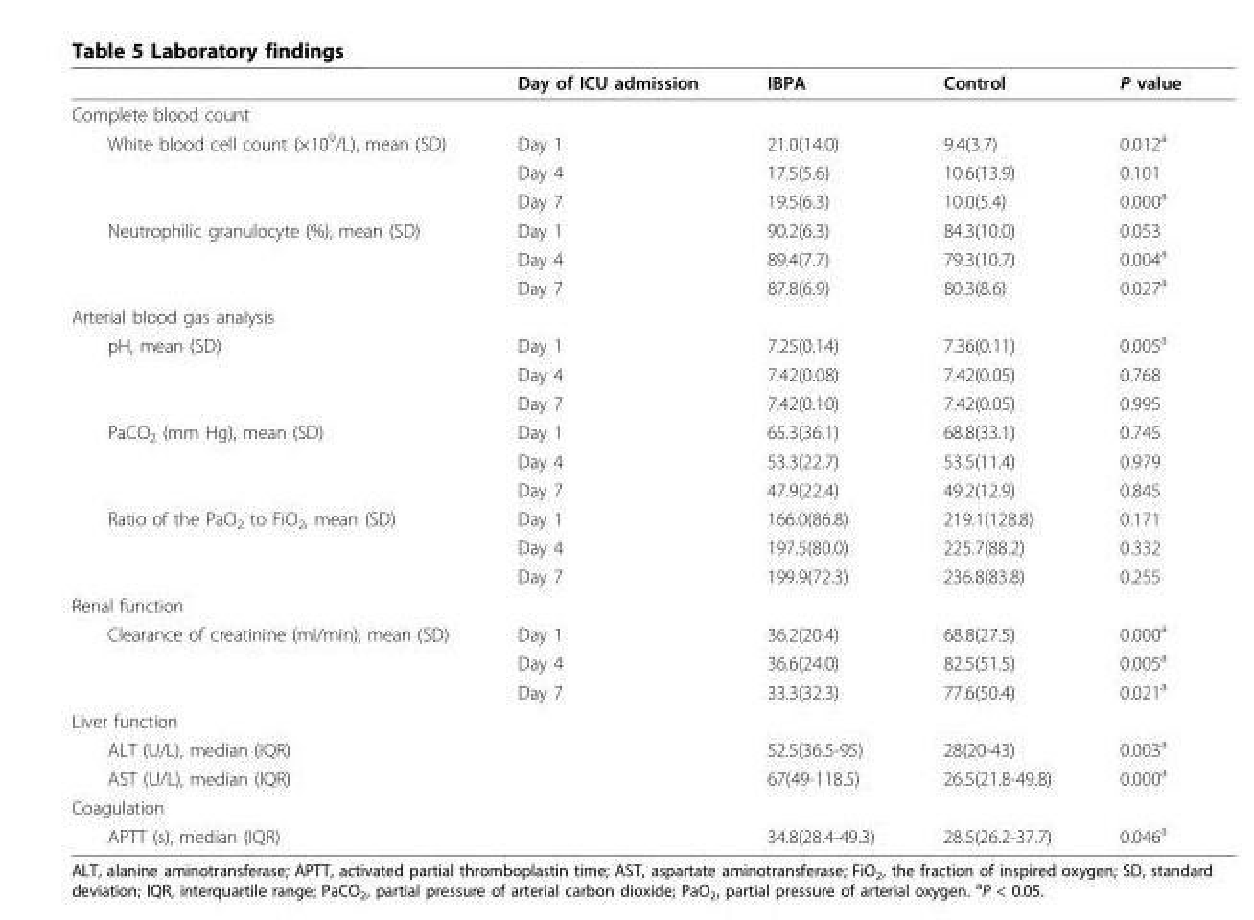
<table><thead><tr><td></td><td>Day of ICU admission</td><td>IBPA</td><td>Control</td><td>P value</td></tr></thead><tbody><tr><td colspan="5">Complete blood count</td></tr><tr><td rowspan="3">White blood cell count (×10<sup>9</sup>/L), mean (SD)</td><td>Day 1</td><td>21.0(14.0)</td><td>9.4(3.7)</td><td>0.012<sup>a</sup></td></tr><tr><td>Day 4</td><td>17.5(5.6)</td><td>10.6(13.9)</td><td>0.101</td></tr><tr><td>Day 7</td><td>19.5(6.3)</td><td>10.0(5.4)</td><td>0.000<sup>a</sup></td></tr><tr><td rowspan="3">Neutrophilic granulocyte (%), mean (SD)</td><td>Day 1</td><td>90.2(6.3)</td><td>84.3(10.0)</td><td>0.053</td></tr><tr><td>Day 4</td><td>89.4(7.7)</td><td>79.3(10.7)</td><td>0.004<sup>a</sup></td></tr><tr><td>Day 7</td><td>87.8(6.9)</td><td>80.3(8.6)</td><td>0.027<sup>a</sup></td></tr><tr><td colspan="5">Arterial blood gas analysis</td></tr><tr><td rowspan="3">pH, mean (SD)</td><td>Day 1</td><td>7.25(0.14)</td><td>7.36(0.11)</td><td>0.005<sup>a</sup></td></tr><tr><td>Day 4</td><td>7.42(0.08)</td><td>7.42(0.05)</td><td>0.768</td></tr><tr><td>Day 7</td><td>7.42(0.10)</td><td>7.42(0.05)</td><td>0.995</td></tr><tr><td rowspan="3">PaCO<sub>2</sub> (mm Hg), mean (SD)</td><td>Day 1</td><td>65.3(36.1)</td><td>68.8(33.1)</td><td>0.745</td></tr><tr><td>Day 4</td><td>53.3(22.7)</td><td>53.5(11.4)</td><td>0.979</td></tr><tr><td>Day 7</td><td>47.9(22.4)</td><td>49.2(12.9)</td><td>0.845</td></tr><tr><td rowspan="3">Ratio of the PaO<sub>2</sub> to FiO<sub>2</sub>, mean (SD)</td><td>Day 1</td><td>166.0(86.8)</td><td>219.1(128.8)</td><td>0.171</td></tr><tr><td>Day 4</td><td>197.5(80.0)</td><td>225.7(88.2)</td><td>0.332</td></tr><tr><td>Day 7</td><td>199.9(72.3)</td><td>236.8(83.8)</td><td>0.255</td></tr><tr><td colspan="5">Renal function</td></tr><tr><td rowspan="3">Clearance of creatinine (ml/min), mean (SD)</td><td>Day 1</td><td>36.2(20.4)</td><td>68.8(27.5)</td><td>0.000<sup>a</sup></td></tr><tr><td>Day 4</td><td>36.6(24.0)</td><td>82.5(51.5)</td><td>0.005<sup>a</sup></td></tr><tr><td>Day 7</td><td>33.3(32.3)</td><td>77.6(50.4)</td><td>0.021<sup>a</sup></td></tr><tr><td colspan="5">Liver function</td></tr><tr><td>ALT (U/L), median (IQR)</td><td></td><td>52.5(36.5-95)</td><td>28(20-43)</td><td>0.003<sup>a</sup></td></tr><tr><td>AST (U/L), median (IQR)</td><td></td><td>67(49-118.5)</td><td>26.5(21.8-49.8)</td><td>0.000<sup>a</sup></td></tr><tr><td colspan="5">Coagulation</td></tr><tr><td>APTT (s), median (IQR)</td><td></td><td>34.8(28.4-49.3)</td><td>28.5(26.2-37.7)</td><td>0.046<sup>a</sup></td></tr></tbody></table>